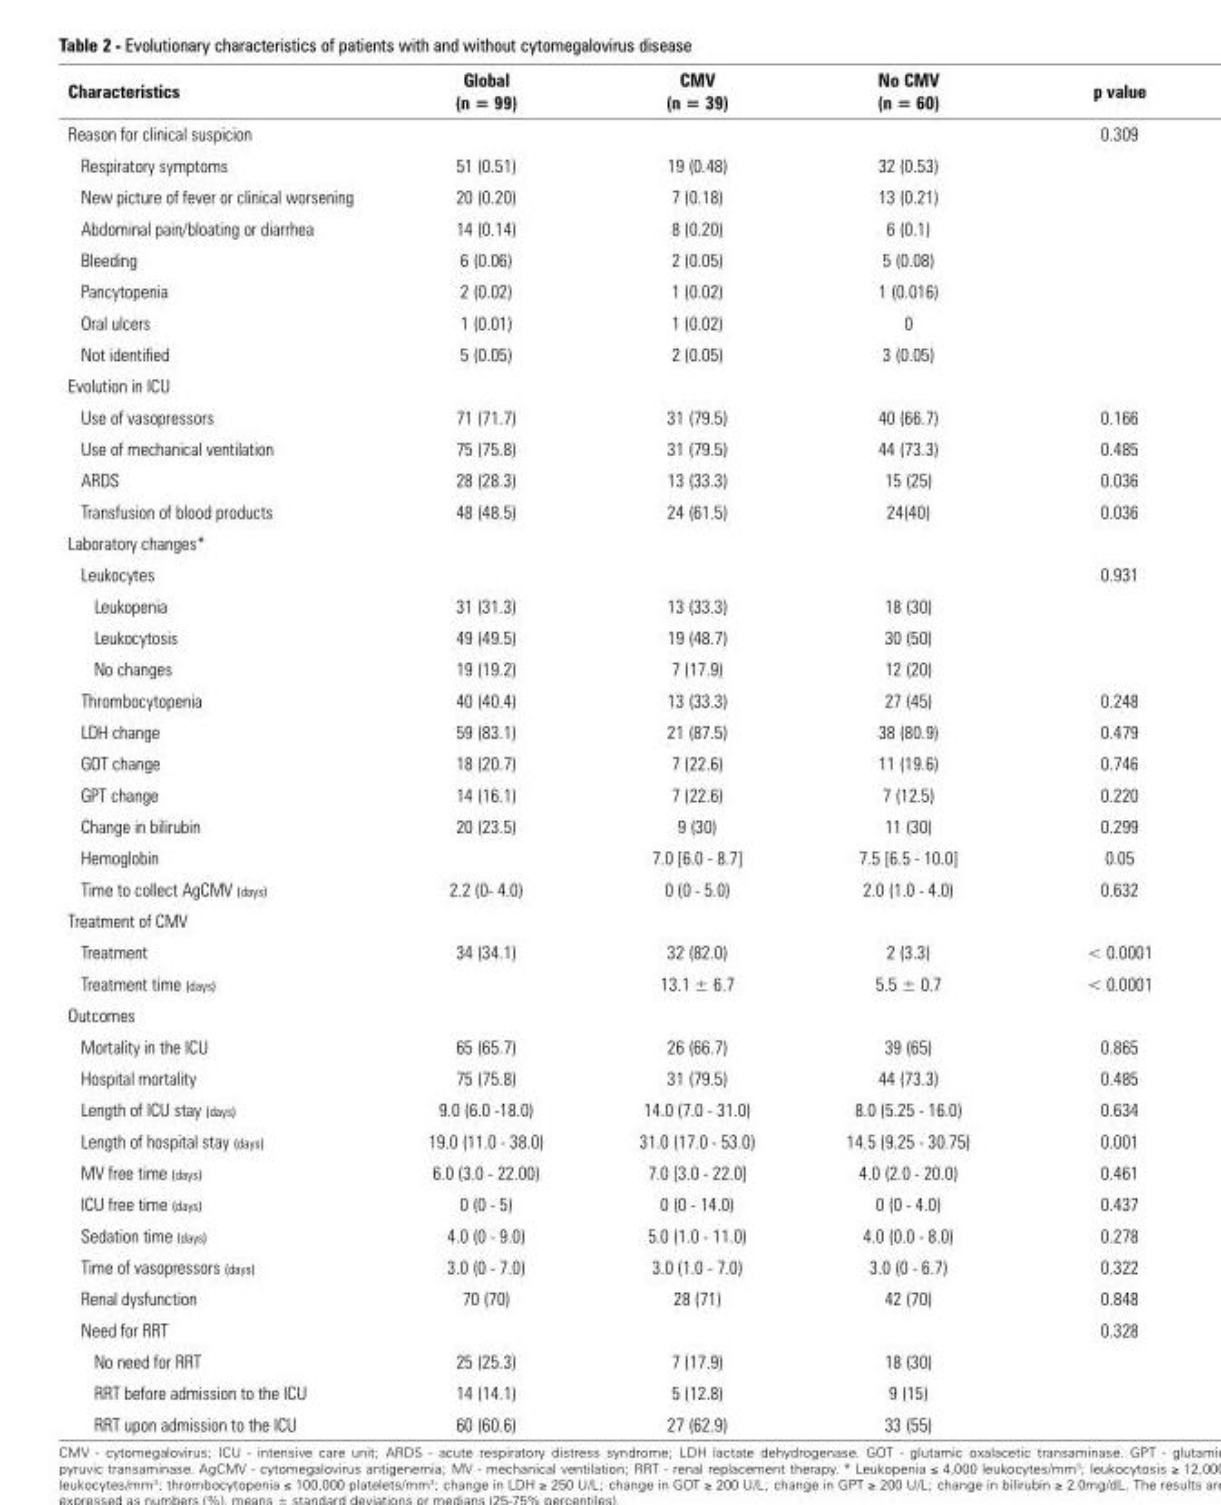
<table><thead><tr><td>Characteristics</td><td>Global (n = 99)</td><td>CMV (n = 39)</td><td>No CMV (n = 60)</td><td>p value</td></tr></thead><tbody><tr><td>Reason for clinical suspicion</td><td></td><td></td><td></td><td>0.309</td></tr><tr><td>Respiratory symptoms</td><td>51 (0.51)</td><td>19 (0.48)</td><td>32 (0.53)</td><td></td></tr><tr><td>New picture of fever or clinical worsening</td><td>20 (0.20)</td><td>7 (0.18)</td><td>13 (0.21)</td><td></td></tr><tr><td>Abdominal pain/bloating or diarrhea</td><td>14 (0.14)</td><td>8 (0.20)</td><td>6 (0.1)</td><td></td></tr><tr><td>Bleeding</td><td>6 (0.06)</td><td>2 (0.05)</td><td>5 (0.08)</td><td></td></tr><tr><td>Pancytopenia</td><td>2 (0.02)</td><td>1 (0.02)</td><td>1 (0.016)</td><td></td></tr><tr><td>Oral ulcers</td><td>1 (0.01)</td><td>1 (0.02)</td><td>0</td><td></td></tr><tr><td>Not identified</td><td>5 (0.05)</td><td>2 (0.05)</td><td>3 (0.05)</td><td></td></tr><tr><td colspan="5">Evolution in ICU</td></tr><tr><td>Use of vasopressors</td><td>71 (71.7)</td><td>31 (79.5)</td><td>40 (66.7)</td><td>0.166</td></tr><tr><td>Use of mechanical ventilation</td><td>75 (75.8)</td><td>31 (79.5)</td><td>44 (73.3)</td><td>0.485</td></tr><tr><td>ARDS</td><td>28 (28.3)</td><td>13 (33.3)</td><td>15 (25)</td><td>0.036</td></tr><tr><td>Transfusion of blood products</td><td>48 (48.5)</td><td>24 (61.5)</td><td>24(40)</td><td>0.036</td></tr><tr><td colspan="5">Laboratory changes*</td></tr><tr><td>Leukocytes</td><td></td><td></td><td></td><td>0.931</td></tr><tr><td>Leukopenia</td><td>31 (31.3)</td><td>13 (33.3)</td><td>18 (30)</td><td></td></tr><tr><td>Leukocytosis</td><td>49 (49.5)</td><td>19 (48.7)</td><td>30 (50)</td><td></td></tr><tr><td>No changes</td><td>19 (19.2)</td><td>7 (17.9)</td><td>12 (20)</td><td></td></tr><tr><td>Thrombocytopenia</td><td>40 (40.4)</td><td>13 (33.3)</td><td>27 (45)</td><td>0.248</td></tr><tr><td>LDH change</td><td>59 (83.1)</td><td>21 (87.5)</td><td>38 (80.9)</td><td>0.479</td></tr><tr><td>GOT change</td><td>18 (20.7)</td><td>7 (22.6)</td><td>11 (19.6)</td><td>0.746</td></tr><tr><td>GPT change</td><td>14 (16.1)</td><td>7 (22.6)</td><td>7 (12.5)</td><td>0.220</td></tr><tr><td>Change in bilirubin</td><td>20 (23.5)</td><td>9 (30)</td><td>11 (30)</td><td>0.299</td></tr><tr><td>Hemoglobin</td><td></td><td>7.0 [6.0 - 8.7]</td><td>7.5 [6.5 - 10.0]</td><td>0.05</td></tr><tr><td>Time to collect AgCMV (days)</td><td>2.2 (0- 4.0)</td><td>0 (0 - 5.0)</td><td>2.0 (1.0 - 4.0)</td><td>0.632</td></tr><tr><td colspan="5">Treatment of CMV</td></tr><tr><td>Treatment</td><td>34 (34.1)</td><td>32 (82.0)</td><td>2 (3.3)</td><td>&lt; 0.0001</td></tr><tr><td>Treatment time (days)</td><td></td><td>13.1 ± 6.7</td><td>5.5 ± 0.7</td><td>&lt; 0.0001</td></tr><tr><td colspan="5">Outcomes</td></tr><tr><td>Mortality in the ICU</td><td>65 (65.7)</td><td>26 (66.7)</td><td>39 (65)</td><td>0.865</td></tr><tr><td>Hospital mortality</td><td>75 (75.8)</td><td>31 (79.5)</td><td>44 (73.3)</td><td>0.485</td></tr><tr><td>Length of ICU stay (days)</td><td>9.0 (6.0 -18.0)</td><td>14.0 (7.0 - 31.0)</td><td>8.0 (5.25 - 16.0)</td><td>0.634</td></tr><tr><td>Length of hospital stay (days)</td><td>19.0 (11.0 - 38.0)</td><td>31.0 (17.0 - 53.0)</td><td>14.5 (9.25 - 30.75)</td><td>0.001</td></tr><tr><td>MV free time (days)</td><td>6.0 (3.0 - 22.00)</td><td>7.0 [3.0 - 22.0]</td><td>4.0 (2.0 - 20.0)</td><td>0.461</td></tr><tr><td>ICU free time (days)</td><td>0 (0 - 5)</td><td>0 (0 - 14.0)</td><td>0 (0 - 4.0)</td><td>0.437</td></tr><tr><td>Sedation time (days)</td><td>4.0 (0 - 9.0)</td><td>5.0 (1.0 - 11.0)</td><td>4.0 (0.0 - 8.0)</td><td>0.278</td></tr><tr><td>Time of vasopressors (days)</td><td>3.0 (0 - 7.0)</td><td>3.0 (1.0 - 7.0)</td><td>3.0 (0 - 6.7)</td><td>0.322</td></tr><tr><td>Renal dysfunction</td><td>70 (70)</td><td>28 (71)</td><td>42 (70)</td><td>0.848</td></tr><tr><td>Need for RRT</td><td></td><td></td><td></td><td>0.328</td></tr><tr><td>No need for RRT</td><td>25 (25.3)</td><td>7 (17.9)</td><td>18 (30)</td><td></td></tr><tr><td>RRT before admission to the ICU</td><td>14 (14.1)</td><td>5 (12.8)</td><td>9 (15)</td><td></td></tr><tr><td>RRT upon admission to the ICU</td><td>60 (60.6)</td><td>27 (62.9)</td><td>33 (55)</td><td></td></tr></tbody></table>